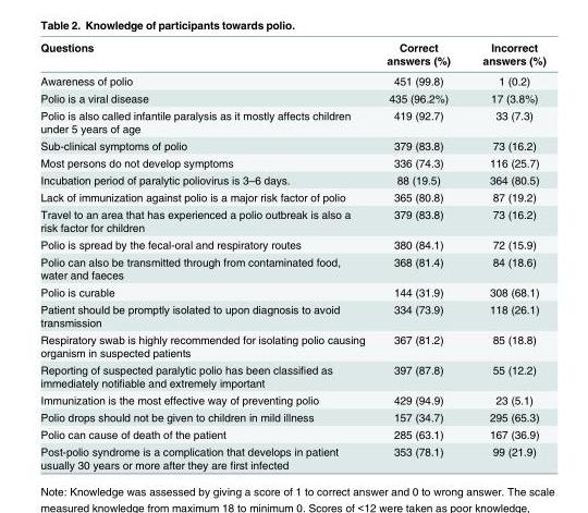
<table><thead><tr><td>Questions</td><td>Correct answers (%)</td><td>Incorrect answers (%)</td></tr></thead><tbody><tr><td>Awareness of polio</td><td>451 (99.8)</td><td>1 (0.2)</td></tr><tr><td>Polio is a viral disease</td><td>435 (96.2%)</td><td>17 (3.8%)</td></tr><tr><td>Polio is also called infantile paralysis as it mostly affects children under 5 years of age</td><td>419 (92.7)</td><td>33 (7.3)</td></tr><tr><td>Sub-clinical symptoms of polio</td><td>379 (83.8)</td><td>73 (16.2)</td></tr><tr><td>Most persons do not develop symptoms</td><td>336 (74.3)</td><td>116 (25.7)</td></tr><tr><td>Incubation period of paralytic poliovirus is 3–6 days.</td><td>88 (19.5)</td><td>364 (80.5)</td></tr><tr><td>Lack of immunization against polio is a major risk factor of polio</td><td>365 (80.8)</td><td>87 (19.2)</td></tr><tr><td>Travel to an area that has experienced a polio outbreak is also a risk factor for children</td><td>379 (83.8)</td><td>73 (16.2)</td></tr><tr><td>Polio is spread by the fecal-oral and respiratory routes</td><td>380 (84.1)</td><td>72 (15.9)</td></tr><tr><td>Polio can also be transmitted through from contaminated food, water and faeces</td><td>368 (81.4)</td><td>84 (18.6)</td></tr><tr><td>Polio is curable</td><td>144 (31.9)</td><td>308 (68.1)</td></tr><tr><td>Patient should be promptly isolated to upon diagnosis to avoid transmission</td><td>334 (73.9)</td><td>118 (26.1)</td></tr><tr><td>Respiratory swab is highly recommended for isolating polio causing organism in suspected patients</td><td>367 (81.2)</td><td>85 (18.8)</td></tr><tr><td>Reporting of suspected paralytic polio has been classified as immediately notifiable and extremely important</td><td>397 (87.8)</td><td>55 (12.2)</td></tr><tr><td>Immunization is the most effective way of preventing polio</td><td>429 (94.9)</td><td>23 (5.1)</td></tr><tr><td>Polio drops should not be given to children in mild illness</td><td>157 (34.7)</td><td>295 (65.3)</td></tr><tr><td>Polio can cause of death of the patient</td><td>285 (63.1)</td><td>167 (36.9)</td></tr><tr><td>Post-polio syndrome is a complication that develops in patient usually 30 years or more after they are first infected</td><td>353 (78.1)</td><td>99 (21.9)</td></tr></tbody></table>